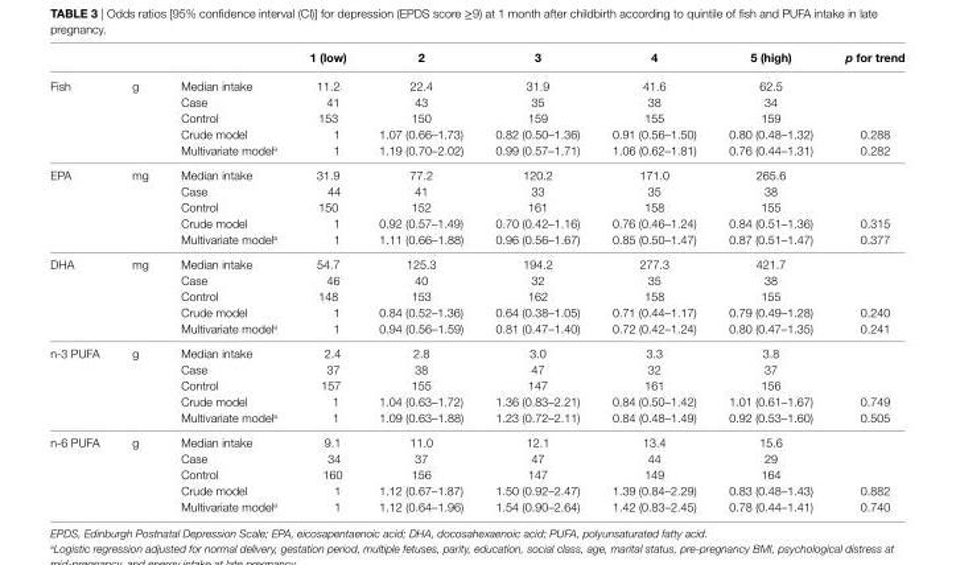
<table><thead><tr><td></td><td></td><td></td><td>1 (low)</td><td>2</td><td>3</td><td>4</td><td>5 (high)</td><td>p for trend</td></tr></thead><tbody><tr><td rowspan="5">Fish</td><td>g</td><td>Median intake</td><td>11.2</td><td>22.4</td><td>31.9</td><td>41.6</td><td>62.5</td><td></td></tr><tr><td></td><td>Case</td><td>41</td><td>43</td><td>35</td><td>38</td><td>34</td><td></td></tr><tr><td></td><td>Control</td><td>153</td><td>150</td><td>159</td><td>155</td><td>159</td><td></td></tr><tr><td></td><td>Crude model</td><td>1</td><td>1.07 (0.66–1.73)</td><td>0.82 (0.50–1.36)</td><td>0.91 (0.56–1.50)</td><td>0.80 (0.48–1.32)</td><td>0.288</td></tr><tr><td></td><td>Multivariate model<sup>a</sup></td><td>1</td><td>1.19 (0.70–2.02)</td><td>0.99 (0.57–1.71)</td><td>1.06 (0.62–1.81)</td><td>0.76 (0.44–1.31)</td><td>0.282</td></tr><tr><td rowspan="5">EPA</td><td>mg</td><td>Median intake</td><td>31.9</td><td>77.2</td><td>120.2</td><td>171.0</td><td>265.6</td><td></td></tr><tr><td></td><td>Case</td><td>44</td><td>41</td><td>33</td><td>35</td><td>38</td><td></td></tr><tr><td></td><td>Control</td><td>150</td><td>152</td><td>161</td><td>158</td><td>155</td><td></td></tr><tr><td></td><td>Crude model</td><td>1</td><td>0.92 (0.57–1.49)</td><td>0.70 (0.42–1.16)</td><td>0.76 (0.46–1.24)</td><td>0.84 (0.51–1.36)</td><td>0.315</td></tr><tr><td></td><td>Multivariate model<sup>a</sup></td><td>1</td><td>1.11 (0.66–1.88)</td><td>0.96 (0.56–1.67)</td><td>0.85 (0.50–1.47)</td><td>0.87 (0.51–1.47)</td><td>0.377</td></tr><tr><td rowspan="5">DHA</td><td>mg</td><td>Median intake</td><td>54.7</td><td>125.3</td><td>194.2</td><td>277.3</td><td>421.7</td><td></td></tr><tr><td></td><td>Case</td><td>46</td><td>40</td><td>32</td><td>35</td><td>38</td><td></td></tr><tr><td></td><td>Control</td><td>148</td><td>153</td><td>162</td><td>158</td><td>155</td><td></td></tr><tr><td></td><td>Crude model</td><td>1</td><td>0.84 (0.52–1.36)</td><td>0.64 (0.38–1.05)</td><td>0.71 (0.44–1.17)</td><td>0.79 (0.49–1.28)</td><td>0.240</td></tr><tr><td></td><td>Multivariate model<sup>a</sup></td><td>1</td><td>0.94 (0.56–1.59)</td><td>0.81 (0.47–1.40)</td><td>0.72 (0.42–1.24)</td><td>0.80 (0.47–1.35)</td><td>0.241</td></tr><tr><td rowspan="5">n-3 PUFA</td><td>g</td><td>Median intake</td><td>2.4</td><td>2.8</td><td>3.0</td><td>3.3</td><td>3.8</td><td></td></tr><tr><td></td><td>Case</td><td>37</td><td>38</td><td>47</td><td>32</td><td>37</td><td></td></tr><tr><td></td><td>Control</td><td>157</td><td>155</td><td>147</td><td>161</td><td>156</td><td></td></tr><tr><td></td><td>Crude model</td><td>1</td><td>1.04 (0.63–1.72)</td><td>1.36 (0.83–2.21)</td><td>0.84 (0.50–1.42)</td><td>1.01 (0.61–1.67)</td><td>0.749</td></tr><tr><td></td><td>Multivariate model<sup>a</sup></td><td>1</td><td>1.09 (0.63–1.88)</td><td>1.23 (0.72–2.11)</td><td>0.84 (0.48–1.49)</td><td>0.92 (0.53–1.60)</td><td>0.505</td></tr><tr><td rowspan="5">n-6 PUFA</td><td>g</td><td>Median intake</td><td>9.1</td><td>11.0</td><td>12.1</td><td>13.4</td><td>15.6</td><td></td></tr><tr><td></td><td>Case</td><td>34</td><td>37</td><td>47</td><td>44</td><td>29</td><td></td></tr><tr><td></td><td>Control</td><td>160</td><td>156</td><td>147</td><td>149</td><td>164</td><td></td></tr><tr><td></td><td>Crude model</td><td>1</td><td>1.12 (0.67–1.87)</td><td>1.50 (0.92–2.47)</td><td>1.39 (0.84–2.29)</td><td>0.83 (0.48–1.43)</td><td>0.882</td></tr><tr><td></td><td>Multivariate model<sup>a</sup></td><td>1</td><td>1.12 (0.64–1.96)</td><td>1.54 (0.90–2.64)</td><td>1.42 (0.83–2.45)</td><td>0.78 (0.44–1.41)</td><td>0.740</td></tr></tbody></table>